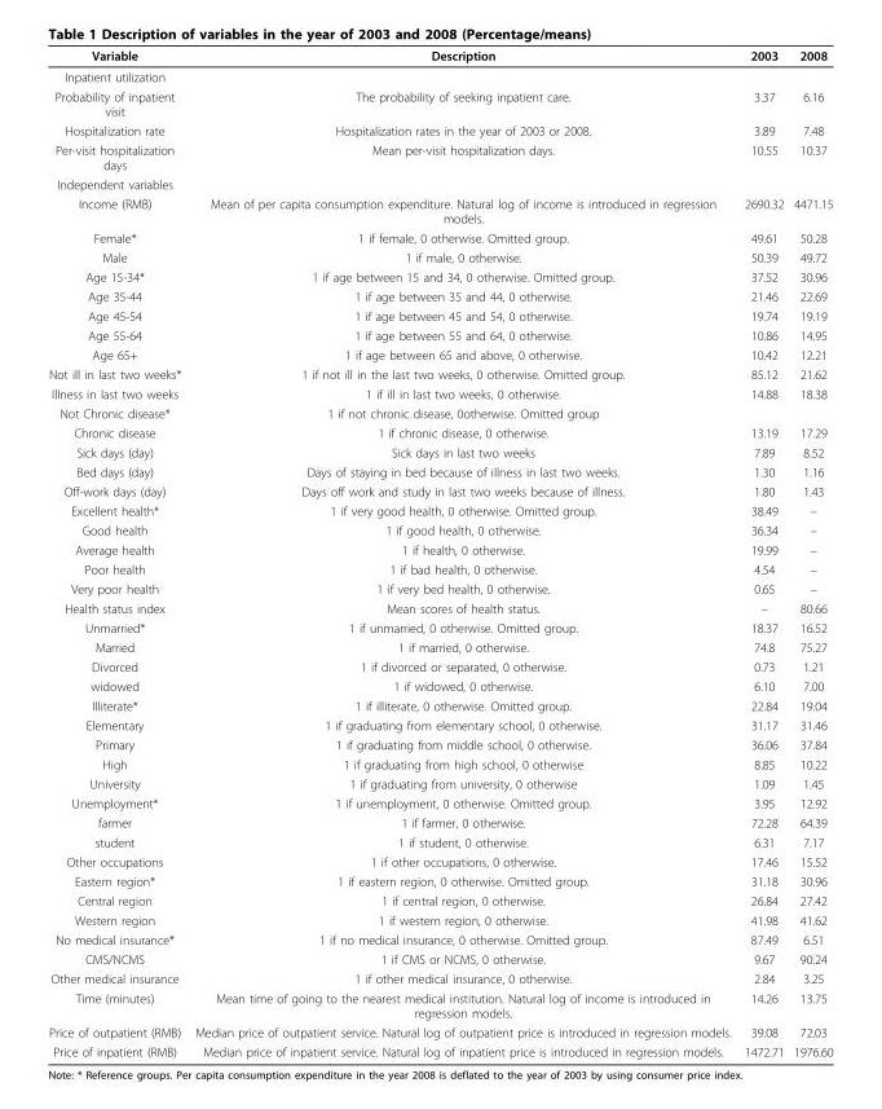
<table><thead><tr><td>Variable</td><td>Description</td><td>2003</td><td>2008</td></tr></thead><tbody><tr><td colspan="4">Inpatient utilization</td></tr><tr><td>Probability of inpatient visit</td><td>The probability of seeking inpatient care.</td><td>3.37</td><td>6.16</td></tr><tr><td>Hospitalization rate</td><td>Hospitalization rates in the year of 2003 or 2008.</td><td>3.89</td><td>7.48</td></tr><tr><td>Per-visit hospitalization days</td><td>Mean per-visit hospitalization days.</td><td>10.55</td><td>10.37</td></tr><tr><td colspan="4">Independent variables</td></tr><tr><td>Income (RMB)</td><td>Mean of per capita consumption expenditure. Natural log of income is introduced in regression models.</td><td>2690.32</td><td>4471.15</td></tr><tr><td>Female*</td><td>1 if female, 0 otherwise. Omitted group.</td><td>49.61</td><td>50.28</td></tr><tr><td>Male</td><td>1 if male, 0 otherwise.</td><td>50.39</td><td>49.72</td></tr><tr><td>Age 15-34*</td><td>1 if age between 15 and 34, 0 otherwise. Omitted group.</td><td>37.52</td><td>30.96</td></tr><tr><td>Age 35-44</td><td>1 if age between 35 and 44, 0 otherwise.</td><td>21.46</td><td>22.69</td></tr><tr><td>Age 45-54</td><td>1 if age between 45 and 54, 0 otherwise.</td><td>19.74</td><td>19.19</td></tr><tr><td>Age 55-64</td><td>1 if age between 55 and 64, 0 otherwise.</td><td>10.86</td><td>14.95</td></tr><tr><td>Age 65+</td><td>1 if age between 65 and above, 0 otherwise.</td><td>10.42</td><td>12.21</td></tr><tr><td>Not ill in last two weeks*</td><td>1 if not ill in the last two weeks, 0 otherwise. Omitted group.</td><td>85.12</td><td>21.62</td></tr><tr><td>Illness in last two weeks</td><td>1 if ill in last two weeks, 0 otherwise.</td><td>14.88</td><td>18.38</td></tr><tr><td>Not Chronic disease*</td><td>1 if not chronic disease, 0otherwise. Omitted group</td><td></td><td></td></tr><tr><td>Chronic disease</td><td>1 if chronic disease, 0 otherwise.</td><td>13.19</td><td>17.29</td></tr><tr><td>Sick days (day)</td><td>Sick days in last two weeks</td><td>7.89</td><td>8.52</td></tr><tr><td>Bed days (day)</td><td>Days of staying in bed because of illness in last two weeks.</td><td>1.30</td><td>1.16</td></tr><tr><td>Off-work days (day)</td><td>Days off work and study in last two weeks because of illness.</td><td>1.80</td><td>1.43</td></tr><tr><td>Excellent health*</td><td>1 if very good health, 0 otherwise. Omitted group.</td><td>38.49</td><td>–</td></tr><tr><td>Good health</td><td>1 if good health, 0 otherwise.</td><td>36.34</td><td>–</td></tr><tr><td>Average health</td><td>1 if health, 0 otherwise.</td><td>19.99</td><td>–</td></tr><tr><td>Poor health</td><td>1 if bad health, 0 otherwise.</td><td>4.54</td><td>–</td></tr><tr><td>Very poor health</td><td>1 if very bed health, 0 otherwise.</td><td>0.65</td><td>–</td></tr><tr><td>Health status index</td><td>Mean scores of health status.</td><td>–</td><td>80.66</td></tr><tr><td>Unmarried*</td><td>1 if unmarried, 0 otherwise. Omitted group.</td><td>18.37</td><td>16.52</td></tr><tr><td>Married</td><td>1 if married, 0 otherwise.</td><td>74.8</td><td>75.27</td></tr><tr><td>Divorced</td><td>1 if divorced or separated, 0 otherwise.</td><td>0.73</td><td>1.21</td></tr><tr><td>widowed</td><td>1 if widowed, 0 otherwise.</td><td>6.10</td><td>7.00</td></tr><tr><td>Illiterate*</td><td>1 if illiterate, 0 otherwise. Omitted group.</td><td>22.84</td><td>19.04</td></tr><tr><td>Elementary</td><td>1 if graduating from elementary school, 0 otherwise.</td><td>31.17</td><td>31.46</td></tr><tr><td>Primary</td><td>1 if graduating from middle school, 0 otherwise.</td><td>36.06</td><td>37.84</td></tr><tr><td>High</td><td>1 if graduating from high school, 0 otherwise</td><td>8.85</td><td>10.22</td></tr><tr><td>University</td><td>1 if graduating from university, 0 otherwise</td><td>1.09</td><td>1.45</td></tr><tr><td>Unemployment*</td><td>1 if unemployment, 0 otherwise. Omitted group.</td><td>3.95</td><td>12.92</td></tr><tr><td>farmer</td><td>1 if farmer, 0 otherwise.</td><td>72.28</td><td>64.39</td></tr><tr><td>student</td><td>1 if student, 0 otherwise.</td><td>6.31</td><td>7.17</td></tr><tr><td>Other occupations</td><td>1 if other occupations, 0 otherwise.</td><td>17.46</td><td>15.52</td></tr><tr><td>Eastern region*</td><td>1 if eastern region, 0 otherwise. Omitted group.</td><td>31.18</td><td>30.96</td></tr><tr><td>Central region</td><td>1 if central region, 0 otherwise.</td><td>26.84</td><td>27.42</td></tr><tr><td>Western region</td><td>1 if western region, 0 otherwise.</td><td>41.98</td><td>41.62</td></tr><tr><td>No medical insurance*</td><td>1 if no medical insurance, 0 otherwise. Omitted group.</td><td>87.49</td><td>6.51</td></tr><tr><td>CMS/NCMS</td><td>1 if CMS or NCMS, 0 otherwise.</td><td>9.67</td><td>90.24</td></tr><tr><td>Other medical insurance</td><td>1 if other medical insurance, 0 otherwise.</td><td>2.84</td><td>3.25</td></tr><tr><td>Time (minutes)</td><td>Mean time of going to the nearest medical institution. Natural log of income is introduced in regression models.</td><td>14.26</td><td>13.75</td></tr><tr><td>Price of outpatient (RMB)</td><td>Median price of outpatient service. Natural log of outpatient price is introduced in regression models.</td><td>39.08</td><td>72.03</td></tr><tr><td>Price of inpatient (RMB)</td><td>Median price of inpatient service. Natural log of inpatient price is introduced in regression models.</td><td>1472.71</td><td>1976.60</td></tr></tbody></table>